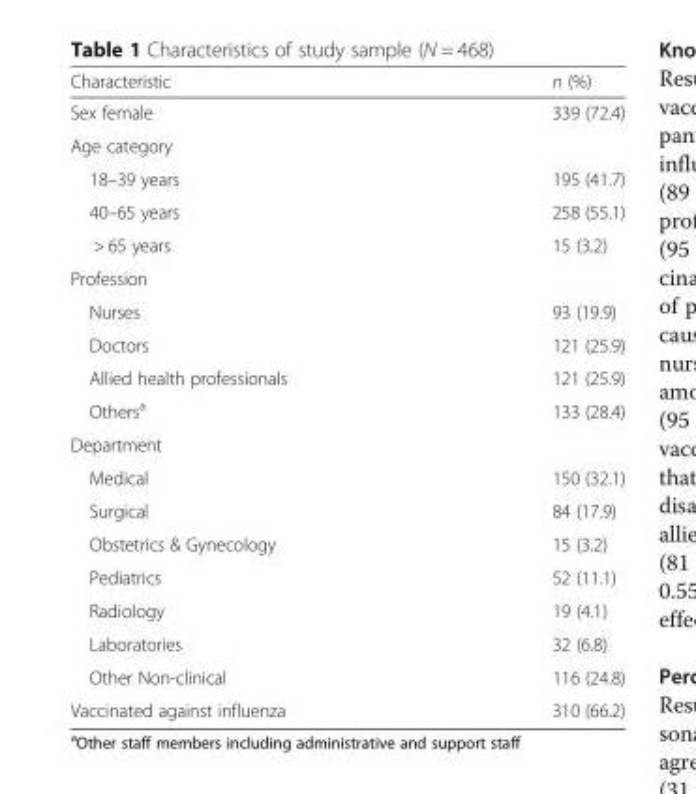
<table><thead><tr><td>Characteristic</td><td>n (%)</td></tr></thead><tbody><tr><td>Sex female</td><td>339 (72.4)</td></tr><tr><td colspan="2">Age category</td></tr><tr><td>18–39 years</td><td>195 (41.7)</td></tr><tr><td>40–65 years</td><td>258 (55.1)</td></tr><tr><td>&gt; 65 years</td><td>15 (3.2)</td></tr><tr><td colspan="2">Profession</td></tr><tr><td>Nurses</td><td>93 (19.9)</td></tr><tr><td>Doctors</td><td>121 (25.9)</td></tr><tr><td>Allied health professionals</td><td>121 (25.9)</td></tr><tr><td>Others<sup>a</sup></td><td>133 (28.4)</td></tr><tr><td colspan="2">Department</td></tr><tr><td>Medical</td><td>150 (32.1)</td></tr><tr><td>Surgical</td><td>84 (17.9)</td></tr><tr><td>Obstetrics &amp; Gynecology</td><td>15 (3.2)</td></tr><tr><td>Pediatrics</td><td>52 (11.1)</td></tr><tr><td>Radiology</td><td>19 (4.1)</td></tr><tr><td>Laboratories</td><td>32 (6.8)</td></tr><tr><td>Other Non-clinical</td><td>116 (24.8)</td></tr><tr><td>Vaccinated against influenza</td><td>310 (66.2)</td></tr></tbody></table>